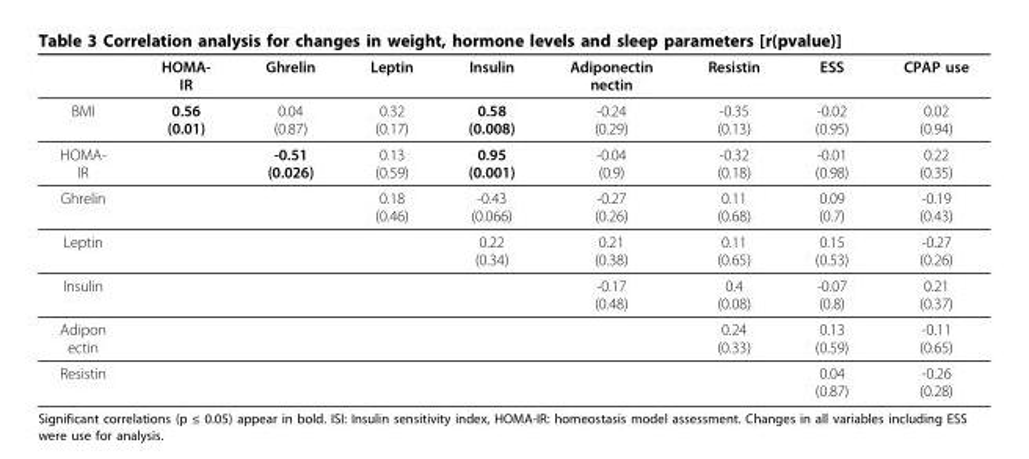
<table><thead><tr><td></td><td>HOMA- IR</td><td>Ghrelin</td><td>Leptin</td><td>Insulin</td><td>Adiponectin nectin</td><td>Resistin</td><td>ESS</td><td>CPAP use</td></tr></thead><tbody><tr><td>BMI</td><td>0.56 (0.01)</td><td>0.04 (0.87)</td><td>0.32 (0.17)</td><td>0.58 (0.008)</td><td>-0.24 (0.29)</td><td>-0.35 (0.13)</td><td>-0.02 (0.95)</td><td>0.02 (0.94)</td></tr><tr><td>HOMA- IR</td><td></td><td>-0.51 (0.026)</td><td>0.13 (0.59)</td><td>0.95 (0.001)</td><td>-0.04 (0.9)</td><td>-0.32 (0.18)</td><td>-0.01 (0.98)</td><td>0.22 (0.35)</td></tr><tr><td>Ghrelin</td><td></td><td></td><td>0.18 (0.46)</td><td>-0.43 (0.066)</td><td>-0.27 (0.26)</td><td>0.11 (0.68)</td><td>0.09 (0.7)</td><td>-0.19 (0.43)</td></tr><tr><td>Leptin</td><td></td><td></td><td></td><td>0.22 (0.34)</td><td>0.21 (0.38)</td><td>0.11 (0.65)</td><td>0.15 (0.53)</td><td>-0.27 (0.26)</td></tr><tr><td>Insulin</td><td></td><td></td><td></td><td></td><td>-0.17 (0.48)</td><td>0.4 (0.08)</td><td>-0.07 (0.8)</td><td>0.21 (0.37)</td></tr><tr><td>Adipon ectin</td><td></td><td></td><td></td><td></td><td></td><td>0.24 (0.33)</td><td>0.13 (0.59)</td><td>-0.11 (0.65)</td></tr><tr><td>Resistin</td><td></td><td></td><td></td><td></td><td></td><td></td><td>0.04 (0.87)</td><td>-0.26 (0.28)</td></tr></tbody></table>